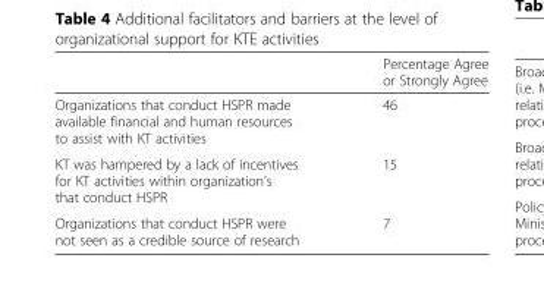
<table><thead><tr><td></td><td>Percentage Agree or Strongly Agree</td></tr></thead><tbody><tr><td>Organizations that conduct HSPR made available financial and human resources to assist with KT activities</td><td>46</td></tr><tr><td>KT was hampered by a lack of incentives for KT activities within organization’s that conduct HSPR</td><td>15</td></tr><tr><td>Organizations that conduct HSPR were not seen as a credible source of research</td><td>7</td></tr></tbody></table>